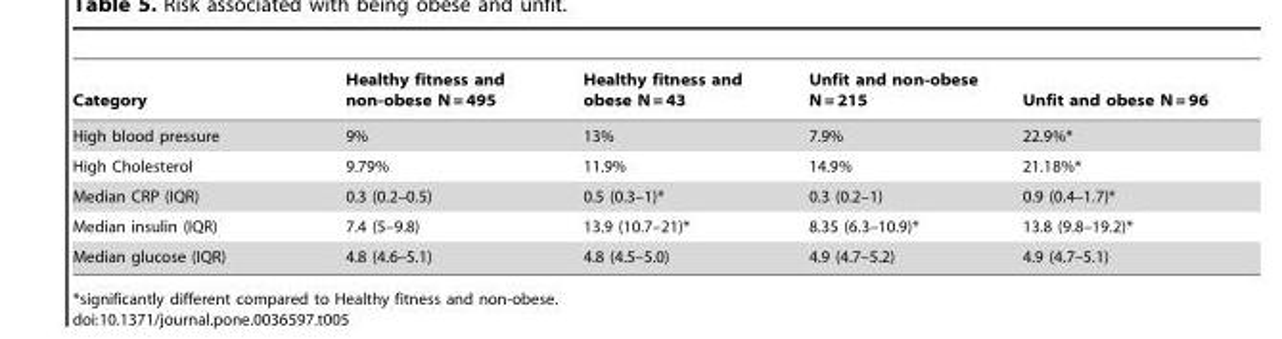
<table><thead><tr><td>Category</td><td>Healthy fitness and non-obese N = 495</td><td>Healthy fitness and obese N = 43</td><td>Unfit and non-obese N = 215</td><td>Unfit and obese N = 96</td></tr></thead><tbody><tr><td>High blood pressure</td><td>9%</td><td>13%</td><td>7.9%</td><td>22.9%*</td></tr><tr><td>High Cholesterol</td><td>9.79%</td><td>11.9%</td><td>14.9%</td><td>21.18%*</td></tr><tr><td>Median CRP (IQR)</td><td>0.3 (0.2–0.5)</td><td>0.5 (0.3–1)*</td><td>0.3 (0.2–1)</td><td>0.9 (0.4–1.7)*</td></tr><tr><td>Median insulin (IQR)</td><td>7.4 (5–9.8)</td><td>13.9 (10.7–21)*</td><td>8.35 (6.3–10.9)*</td><td>13.8 (9.8–19.2)*</td></tr><tr><td>Median glucose (IQR)</td><td>4.8 (4.6–5.1)</td><td>4.8 (4.5–5.0)</td><td>4.9 (4.7–5.2)</td><td>4.9 (4.7–5.1)</td></tr></tbody></table>